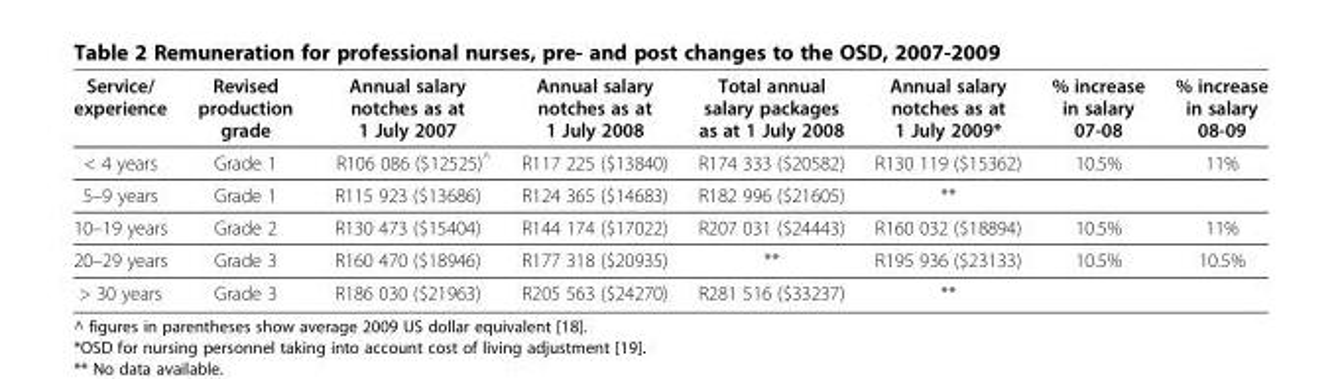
<table><thead><tr><td>Service/ experience</td><td>Revised production grade</td><td>Annual salary notches as at 1 July 2007</td><td>Annual salary notches as at 1 July 2008</td><td>Total annual salary packages as at 1 July 2008</td><td>Annual salary notches as at 1 July 2009*</td><td>% increase in salary 07-08</td><td>% increase in salary 08-09</td></tr></thead><tbody><tr><td>&lt; 4 years</td><td>Grade 1</td><td>R106 086 ($12525)<sup>^</sup></td><td>R117 225 ($13840)</td><td>R174 333 ($20582)</td><td>R130 119 ($15362)</td><td>10.5%</td><td>11%</td></tr><tr><td>5–9 years</td><td>Grade 1</td><td>R115 923 ($13686)</td><td>R124 365 ($14683)</td><td>R182 996 ($21605)</td><td>**</td><td></td><td></td></tr><tr><td>10–19 years</td><td>Grade 2</td><td>R130 473 ($15404)</td><td>R144 174 ($17022)</td><td>R207 031 ($24443)</td><td>R160 032 ($18894)</td><td>10.5%</td><td>11%</td></tr><tr><td>20–29 years</td><td>Grade 3</td><td>R160 470 ($18946)</td><td>R177 318 ($20935)</td><td>**</td><td>R195 936 ($23133)</td><td>10.5%</td><td>10.5%</td></tr><tr><td>&gt; 30 years</td><td>Grade 3</td><td>R186 030 ($21963)</td><td>R205 563 ($24270)</td><td>R281 516 ($33237)</td><td>**</td><td></td><td></td></tr></tbody></table>